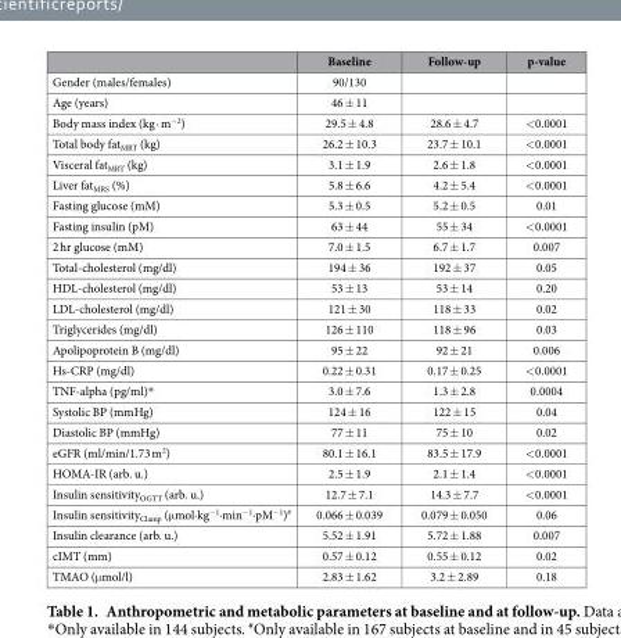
<table><thead><tr><td></td><td>Baseline</td><td>Follow-up</td><td>p-value</td></tr></thead><tbody><tr><td>Gender (males/females)</td><td>90/130</td><td></td><td></td></tr><tr><td>Age (years)</td><td>46 ± 11</td><td></td><td></td></tr><tr><td>Body mass index (kg ∙ m<sup>−2</sup>)</td><td>29.5 ± 4.8</td><td>28.6 ± 4.7</td><td>&lt; 0.0001</td></tr><tr><td>Total body fat<sub>MRT</sub> (kg)</td><td>26.2 ± 10.3</td><td>23.7 ± 10.1</td><td>&lt; 0.0001</td></tr><tr><td>Visceral fat<sub>MRT</sub> (kg)</td><td>3.1 ± 1.9</td><td>2.6 ± 1.8</td><td>&lt; 0.0001</td></tr><tr><td>Liver fat<sub>MRS</sub> (%)</td><td>5.8 ± 6.6</td><td>4.2 ± 5.4</td><td>&lt; 0.0001</td></tr><tr><td>Fasting glucose (mM)</td><td>5.3 ± 0.5</td><td>5.2 ± 0.5</td><td>0.01</td></tr><tr><td>Fasting insulin (pM)</td><td>63 ± 44</td><td>55 ± 34</td><td>&lt;0.0001</td></tr><tr><td>2 hr glucose (mM)</td><td>7.0 ± 1.5</td><td>6.7 ± 1.7</td><td>0.007</td></tr><tr><td>Total-cholesterol (mg/dl)</td><td>194 ± 36</td><td>192 ± 37</td><td>0.05</td></tr><tr><td>HDL-cholesterol (mg/dl)</td><td>53 ± 13</td><td>53 ± 14</td><td>0.20</td></tr><tr><td>LDL-cholesterol (mg/dl)</td><td>121 ± 30</td><td>118 ± 33</td><td>0.02</td></tr><tr><td>Triglycerides (mg/dl)</td><td>126 ± 110</td><td>118 ± 96</td><td>0.03</td></tr><tr><td>Apolipoprotein B (mg/dl)</td><td>95 ± 22</td><td>92 ± 21</td><td>0.006</td></tr><tr><td>Hs-CRP (mg/dl)</td><td>0.22 ± 0.31</td><td>0.17 ± 0.25</td><td>&lt; 0.0001</td></tr><tr><td>TNF-alpha (pg/ml)*</td><td>3.0 ± 7.6</td><td>1.3 ± 2.8</td><td>0.0004</td></tr><tr><td>Systolic BP (mmHg)</td><td>124 ± 16</td><td>122 ± 15</td><td>0.04</td></tr><tr><td>Diastolic BP (mmHg)</td><td>77 ± 11</td><td>75 ± 10</td><td>0.02</td></tr><tr><td>eGFR (ml/min/1.73 m<sup>2</sup>)</td><td>80.1 ± 16.1</td><td>83.5 ± 17.9</td><td>&lt; 0.0001</td></tr><tr><td>HOMA-IR (arb. u.)</td><td>2.5 ± 1.9</td><td>2.1 ± 1.4</td><td>&lt; 0.0001</td></tr><tr><td>Insulin sensitivity<sub>OGTT</sub> (arb. u.)</td><td>12.7 ± 7.1</td><td>14.3 ± 7.7</td><td>&lt; 0.0001</td></tr><tr><td>Insulin sensitivity<sub>Clamp</sub> (μ mol·kg<sup>−1</sup>·min<sup>−1</sup>·pM<sup>−1</sup>)#</td><td>0.066 ± 0.039</td><td>0.079 ± 0.050</td><td>0.06</td></tr><tr><td>Insulin clearance (arb. u.)</td><td>5.52 ± 1.91</td><td>5.72 ± 1.88</td><td>0.007</td></tr><tr><td>cIMT (mm)</td><td>0.57 ± 0.12</td><td>0.55 ± 0.12</td><td>0.02</td></tr><tr><td>TMAO (μ mol/l)</td><td>2.83 ± 1.62</td><td>3.2 ± 2.89</td><td>0.18</td></tr></tbody></table>